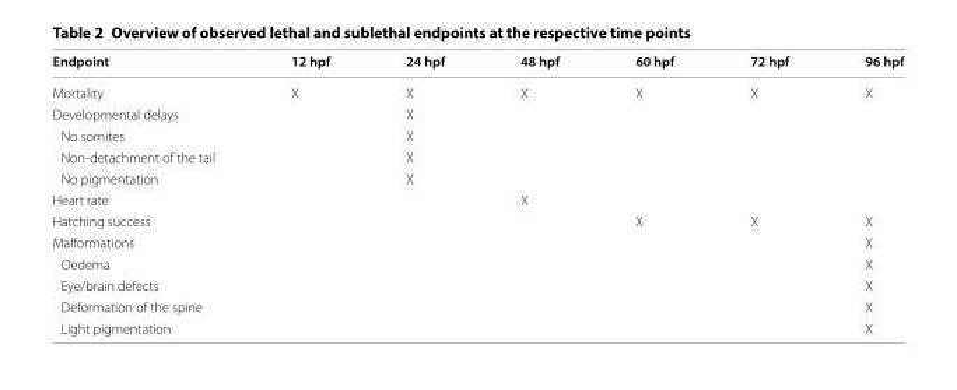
<table><thead><tr><td>Endpoint</td><td>12 hpf</td><td>24 hpf</td><td>48 hpf</td><td>60 hpf</td><td>72 hpf</td><td>96 hpf</td></tr></thead><tbody><tr><td>Mortality</td><td>X</td><td>X</td><td>X</td><td>X</td><td>X</td><td>X</td></tr><tr><td>Developmental delays</td><td></td><td>X</td><td></td><td></td><td></td><td></td></tr><tr><td>No somites</td><td></td><td>X</td><td></td><td></td><td></td><td></td></tr><tr><td>Non‑detachment of the tail</td><td></td><td>X</td><td></td><td></td><td></td><td></td></tr><tr><td>No pigmentation</td><td></td><td>X</td><td></td><td></td><td></td><td></td></tr><tr><td>Heart rate</td><td></td><td></td><td>X</td><td></td><td></td><td></td></tr><tr><td>Hatching success</td><td></td><td></td><td></td><td>X</td><td>X</td><td>X</td></tr><tr><td>Malformations</td><td></td><td></td><td></td><td></td><td></td><td>X</td></tr><tr><td>Oedema</td><td></td><td></td><td></td><td></td><td></td><td>X</td></tr><tr><td>Eye/brain defects</td><td></td><td></td><td></td><td></td><td></td><td>X</td></tr><tr><td>Deformation of the spine</td><td></td><td></td><td></td><td></td><td></td><td>X</td></tr><tr><td>Light pigmentation</td><td></td><td></td><td></td><td></td><td></td><td>X</td></tr></tbody></table>